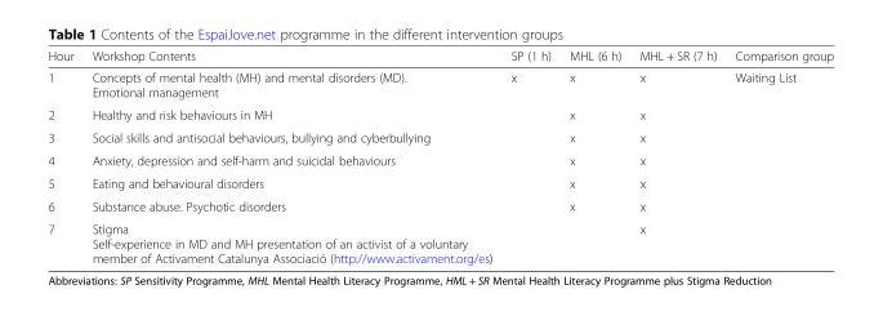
<table><thead><tr><td>Hour</td><td>Workshop Contents</td><td>SP (1 h)</td><td>MHL (6 h)</td><td>MHL + SR (7 h)</td><td>Comparison group</td></tr></thead><tbody><tr><td>1</td><td>Concepts of mental health (MH) and mental disorders (MD). Emotional management</td><td>x</td><td>x</td><td>x</td><td rowspan="7">Waiting List</td></tr><tr><td>2</td><td>Healthy and risk behaviours in MH</td><td></td><td>x</td><td>x</td></tr><tr><td>3</td><td>Social skills and antisocial behaviours, bullying and cyberbullying</td><td></td><td>x</td><td>x</td></tr><tr><td>4</td><td>Anxiety, depression and self-harm and suicidal behaviours</td><td></td><td>x</td><td>x</td></tr><tr><td>5</td><td>Eating and behavioural disorders</td><td></td><td>x</td><td>x</td></tr><tr><td>6</td><td>Substance abuse. Psychotic disorders</td><td></td><td>x</td><td>x</td></tr><tr><td>7</td><td>Stigma Self-experience in MD and MH presentation of an activist of a voluntary member of Activament Catalunya Associació (http://www.activament.org/es)</td><td></td><td></td><td>x</td></tr></tbody></table>